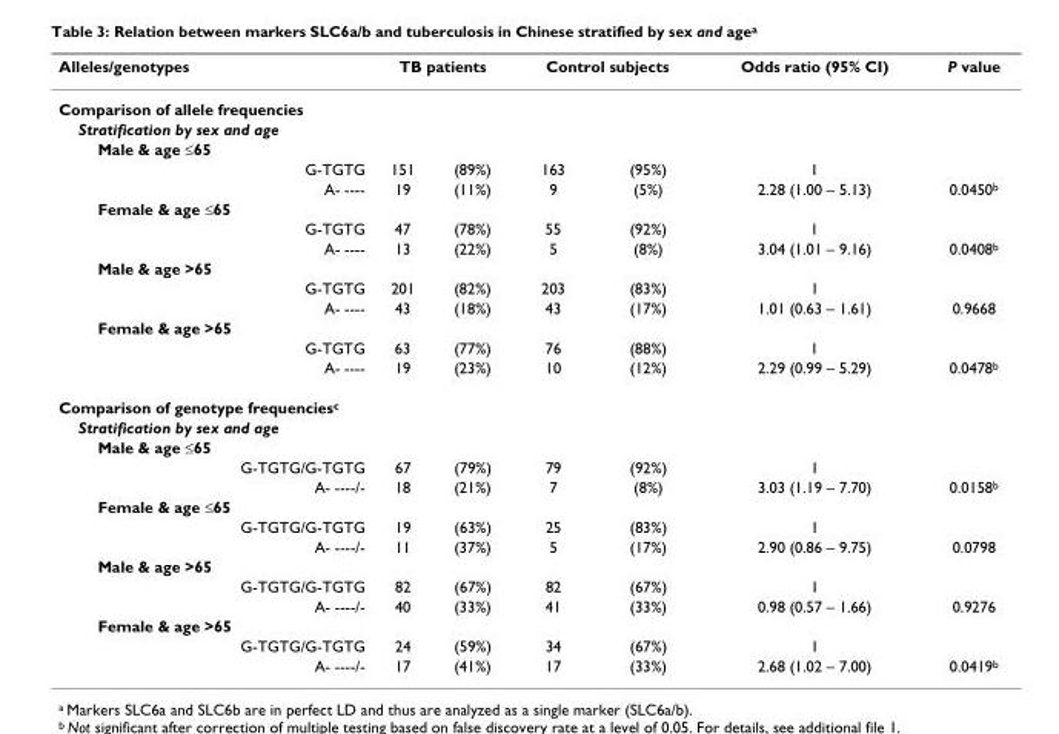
<table><thead><tr><td>Alleles/genotypes</td><td colspan="2">TB patients</td><td colspan="2">Control subjects</td><td>Odds ratio (95% CI)</td><td>P value</td></tr><tr><td colspan="7">Comparison of allele frequencies</td></tr><tr><td>Stratification by sex and age</td><td></td><td></td><td></td><td></td><td></td><td></td></tr></thead><tbody><tr><td colspan="7">Male &amp; age ≤65</td></tr><tr><td>G-TGTG</td><td>151</td><td>(89%)</td><td>163</td><td>(95%)</td><td>1</td><td></td></tr><tr><td>A- ----</td><td>19</td><td>(11%)</td><td>9</td><td>(5%)</td><td>2.28 (1.00 – 5.13)</td><td>0.0450<sup>b</sup></td></tr><tr><td colspan="7">Female &amp; age ≤65</td></tr><tr><td>G-TGTG</td><td>47</td><td>(78%)</td><td>55</td><td>(92%)</td><td>1</td><td></td></tr><tr><td>A- ----</td><td>13</td><td>(22%)</td><td>5</td><td>(8%)</td><td>3.04 (1.01 – 9.16)</td><td>0.0408<sup>b</sup></td></tr><tr><td colspan="7">Male &amp; age &gt;65</td></tr><tr><td>G-TGTG</td><td>201</td><td>(82%)</td><td>203</td><td>(83%)</td><td>1</td><td></td></tr><tr><td>A- ----</td><td>43</td><td>(18%)</td><td>43</td><td>(17%)</td><td>1.01 (0.63 – 1.61)</td><td>0.9668</td></tr><tr><td colspan="7">Female &amp; age &gt;65</td></tr><tr><td>G-TGTG</td><td>63</td><td>(77%)</td><td>76</td><td>(88%)</td><td>1</td><td></td></tr><tr><td>A- ----</td><td>19</td><td>(23%)</td><td>10</td><td>(12%)</td><td>2.29 (0.99 – 5.29)</td><td>0.0478<sup>b</sup></td></tr><tr><td colspan="7">Comparison of genotype frequencies<sup>c</sup></td></tr><tr><td colspan="7">Stratification by sex and age</td></tr><tr><td colspan="7">Male &amp; age ≤65</td></tr><tr><td>G-TGTG/G-TGTG</td><td>67</td><td>(79%)</td><td>79</td><td>(92%)</td><td>1</td><td></td></tr><tr><td>A- ----/-</td><td>18</td><td>(21%)</td><td>7</td><td>(8%)</td><td>3.03 (1.19 – 7.70)</td><td>0.0158<sup>b</sup></td></tr><tr><td colspan="7">Female &amp; age ≤65</td></tr><tr><td>G-TGTG/G-TGTG</td><td>19</td><td>(63%)</td><td>25</td><td>(83%)</td><td>1</td><td></td></tr><tr><td>A- ----/-</td><td>11</td><td>(37%)</td><td>5</td><td>(17%)</td><td>2.90 (0.86 – 9.75)</td><td>0.0798</td></tr><tr><td colspan="7">Male &amp; age &gt;65</td></tr><tr><td>G-TGTG/G-TGTG</td><td>82</td><td>(67%)</td><td>82</td><td>(67%)</td><td>1</td><td></td></tr><tr><td>A- ----/-</td><td>40</td><td>(33%)</td><td>41</td><td>(33%)</td><td>0.98 (0.57 – 1.66)</td><td>0.9276</td></tr><tr><td colspan="7">Female &amp; age &gt;65</td></tr><tr><td>G-TGTG/G-TGTG</td><td>24</td><td>(59%)</td><td>34</td><td>(67%)</td><td>1</td><td></td></tr><tr><td>A- ----/-</td><td>17</td><td>(41%)</td><td>17</td><td>(33%)</td><td>2.68 (1.02 – 7.00)</td><td>0.0419<sup>b</sup></td></tr></tbody></table>